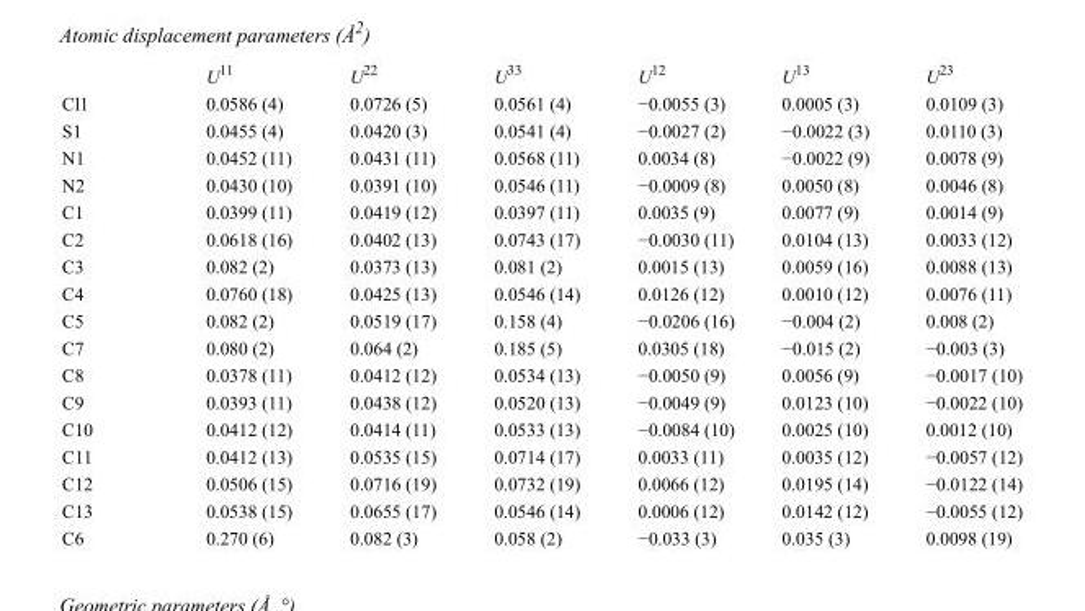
<table><thead><tr><td></td><td>U<sup>11</sup></td><td>U<sup>22</sup></td><td>U<sup>33</sup></td><td>U<sup>12</sup></td><td>U<sup>13</sup></td><td>U<sup>23</sup></td></tr></thead><tbody><tr><td>Cl1</td><td>0.0586 (4)</td><td>0.0726 (5)</td><td>0.0561 (4)</td><td>−0.0055 (3)</td><td>0.0005 (3)</td><td>0.0109 (3)</td></tr><tr><td>S1</td><td>0.0455 (4)</td><td>0.0420 (3)</td><td>0.0541 (4)</td><td>−0.0027 (2)</td><td>−0.0022 (3)</td><td>0.0110 (3)</td></tr><tr><td>N1</td><td>0.0452 (11)</td><td>0.0431 (11)</td><td>0.0568 (11)</td><td>0.0034 (8)</td><td>−0.0022 (9)</td><td>0.0078 (9)</td></tr><tr><td>N2</td><td>0.0430 (10)</td><td>0.0391 (10)</td><td>0.0546 (11)</td><td>−0.0009 (8)</td><td>0.0050 (8)</td><td>0.0046 (8)</td></tr><tr><td>C1</td><td>0.0399 (11)</td><td>0.0419 (12)</td><td>0.0397 (11)</td><td>0.0035 (9)</td><td>0.0077 (9)</td><td>0.0014 (9)</td></tr><tr><td>C2</td><td>0.0618 (16)</td><td>0.0402 (13)</td><td>0.0743 (17)</td><td>−0.0030 (11)</td><td>0.0104 (13)</td><td>0.0033 (12)</td></tr><tr><td>C3</td><td>0.082 (2)</td><td>0.0373 (13)</td><td>0.081 (2)</td><td>0.0015 (13)</td><td>0.0059 (16)</td><td>0.0088 (13)</td></tr><tr><td>C4</td><td>0.0760 (18)</td><td>0.0425 (13)</td><td>0.0546 (14)</td><td>0.0126 (12)</td><td>0.0010 (12)</td><td>0.0076 (11)</td></tr><tr><td>C5</td><td>0.082 (2)</td><td>0.0519 (17)</td><td>0.158 (4)</td><td>−0.0206 (16)</td><td>−0.004 (2)</td><td>0.008 (2)</td></tr><tr><td>C7</td><td>0.080 (2)</td><td>0.064 (2)</td><td>0.185 (5)</td><td>0.0305 (18)</td><td>−0.015 (2)</td><td>−0.003 (3)</td></tr><tr><td>C8</td><td>0.0378 (11)</td><td>0.0412 (12)</td><td>0.0534 (13)</td><td>−0.0050 (9)</td><td>0.0056 (9)</td><td>−0.0017 (10)</td></tr><tr><td>C9</td><td>0.0393 (11)</td><td>0.0438 (12)</td><td>0.0520 (13)</td><td>−0.0049 (9)</td><td>0.0123 (10)</td><td>−0.0022 (10)</td></tr><tr><td>C10</td><td>0.0412 (12)</td><td>0.0414 (11)</td><td>0.0533 (13)</td><td>−0.0084 (10)</td><td>0.0025 (10)</td><td>0.0012 (10)</td></tr><tr><td>C11</td><td>0.0412 (13)</td><td>0.0535 (15)</td><td>0.0714 (17)</td><td>0.0033 (11)</td><td>0.0035 (12)</td><td>−0.0057 (12)</td></tr><tr><td>C12</td><td>0.0506 (15)</td><td>0.0716 (19)</td><td>0.0732 (19)</td><td>0.0066 (12)</td><td>0.0195 (14)</td><td>−0.0122 (14)</td></tr><tr><td>C13</td><td>0.0538 (15)</td><td>0.0655 (17)</td><td>0.0546 (14)</td><td>0.0006 (12)</td><td>0.0142 (12)</td><td>−0.0055 (12)</td></tr><tr><td>C6</td><td>0.270 (6)</td><td>0.082 (3)</td><td>0.058 (2)</td><td>−0.033 (3)</td><td>0.035 (3)</td><td>0.0098 (19)</td></tr></tbody></table>